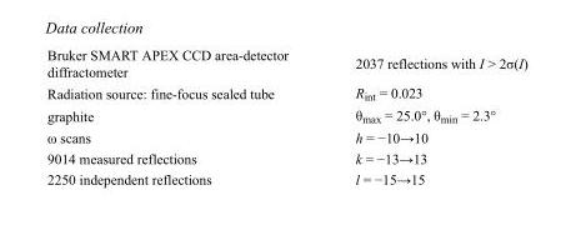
<table><tbody><tr><td>Bruker SMART APEX CCD area-detector diffractometer</td><td>2037 reflections with I &gt; 2σ(I)</td></tr><tr><td>Radiation source: fine-focus sealed tube</td><td>R<sub>int</sub> = 0.023</td></tr><tr><td>graphite</td><td>θ<sub>max</sub> = 25.0°, θ<sub>min</sub> = 2.3°</td></tr><tr><td>ω scans</td><td>h = −10→10</td></tr><tr><td>9014 measured reflections</td><td>k = −13→13</td></tr><tr><td>2250 independent reflections</td><td>l = −15→15</td></tr></tbody></table>